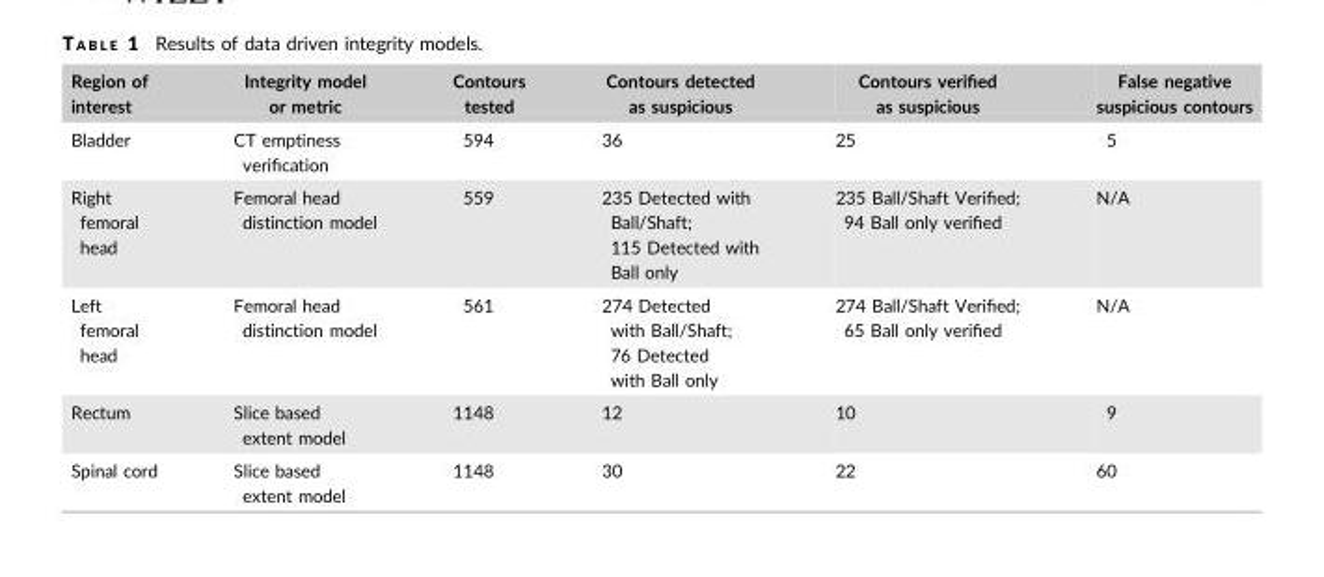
<table><thead><tr><td>Region of interest</td><td>Integrity model or metric</td><td>Contours tested</td><td>Contours detected as suspicious</td><td>Contours verified as suspicious</td><td>False negative suspicious contours</td></tr></thead><tbody><tr><td>Bladder</td><td>CT emptiness verification</td><td>594</td><td>36</td><td>25</td><td>5</td></tr><tr><td>Right femoral head</td><td>Femoral head distinction model</td><td>559</td><td>235 Detected with Ball/Shaft; 115 Detected with Ball only</td><td>235 Ball/Shaft Verified; 94 Ball only verified</td><td>N/A</td></tr><tr><td>Left femoral head</td><td>Femoral head distinction model</td><td>561</td><td>274 Detected with Ball/Shaft; 76 Detected with Ball only</td><td>274 Ball/Shaft Verified; 65 Ball only verified</td><td>N/A</td></tr><tr><td>Rectum</td><td>Slice based extent model</td><td>1148</td><td>12</td><td>10</td><td>9</td></tr><tr><td>Spinal cord</td><td>Slice based extent model</td><td>1148</td><td>30</td><td>22</td><td>60</td></tr></tbody></table>